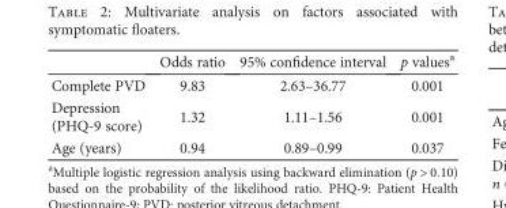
<table><thead><tr><td></td><td>Odds ratio</td><td>95% confidence interval</td><td>p values<sup>a</sup></td></tr></thead><tbody><tr><td>Complete PVD</td><td>9.83</td><td>2.63–36.77</td><td>0.001</td></tr><tr><td>Depression (PHQ-9 score)</td><td>1.32</td><td>1.11–1.56</td><td>0.001</td></tr><tr><td>Age (years)</td><td>0.94</td><td>0.89–0.99</td><td>0.037</td></tr></tbody></table>